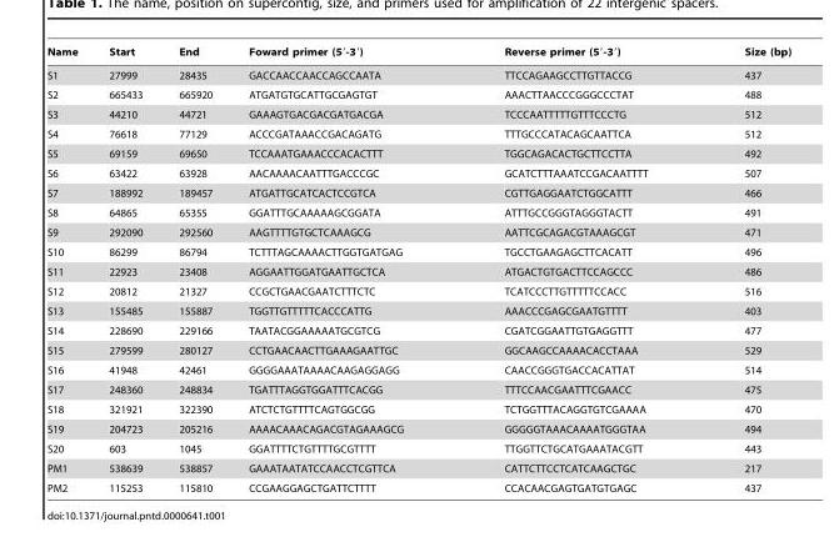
<table><thead><tr><td>Name</td><td>Start</td><td>End</td><td>Foward primer (5′-3′)</td><td>Reverse primer (5′-3′)</td><td>Size (bp)</td></tr></thead><tbody><tr><td>S1</td><td>27999</td><td>28435</td><td>GACCAACCAACCAGCCAATA</td><td>TTCCAGAAGCCTTGTTACCG</td><td>437</td></tr><tr><td>S2</td><td>665433</td><td>665920</td><td>ATGATGTGCATTGCGAGTGT</td><td>AAACTTAACCCGGGCCCTAT</td><td>488</td></tr><tr><td>S3</td><td>44210</td><td>44721</td><td>GAAAGTGACGACGATGACGA</td><td>TCCCAATTTTTGTTTCCCTG</td><td>512</td></tr><tr><td>S4</td><td>76618</td><td>77129</td><td>ACCCGATAAACCGACAGATG</td><td>TTTGCCCATACAGCAATTCA</td><td>512</td></tr><tr><td>S5</td><td>69159</td><td>69650</td><td>TCCAAATGAAACCCACACTTT</td><td>TGGCAGACACTGCTTCCTTA</td><td>492</td></tr><tr><td>S6</td><td>63422</td><td>63928</td><td>AACAAAACAATTTGACCCGC</td><td>GCATCTTTAAATCCGACAATTTT</td><td>507</td></tr><tr><td>S7</td><td>188992</td><td>189457</td><td>ATGATTGCATCACTCCGTCA</td><td>CGTTGAGGAATCTGGCATTT</td><td>466</td></tr><tr><td>S8</td><td>64865</td><td>65355</td><td>GGATTTGCAAAAAGCGGATA</td><td>ATTTGCCGGGTAGGGTACTT</td><td>491</td></tr><tr><td>S9</td><td>292090</td><td>292560</td><td>AAGTTTTGTGCTCAAAGCG</td><td>AATTCGCAGACGTAAAGCGT</td><td>471</td></tr><tr><td>S10</td><td>86299</td><td>86794</td><td>TCTTTAGCAAAACTTGGTGATGAG</td><td>TGCCTGAAGAGCTTCACATT</td><td>496</td></tr><tr><td>S11</td><td>22923</td><td>23408</td><td>AGGAATTGGATGAATTGCTCA</td><td>ATGACTGTGACTTCCAGCCC</td><td>486</td></tr><tr><td>S12</td><td>20812</td><td>21327</td><td>CCGCTGAACGAATCTTTCTC</td><td>TCATCCCTTGTTTTTCCACC</td><td>516</td></tr><tr><td>S13</td><td>155485</td><td>155887</td><td>TGGTTGTTTTTCACCCATTG</td><td>AAACCCGAGCGAATGTTTT</td><td>403</td></tr><tr><td>S14</td><td>228690</td><td>229166</td><td>TAATACGGAAAAATGCGTCG</td><td>CGATCGGAATTGTGAGGTTT</td><td>477</td></tr><tr><td>S15</td><td>279599</td><td>280127</td><td>CCTGAACAACTTGAAAGAATTGC</td><td>GGCAAGCCAAAACACCTAAA</td><td>529</td></tr><tr><td>S16</td><td>41948</td><td>42461</td><td>GGGGAAATAAAACAAGAGGAGG</td><td>CAACCGGGTGACCACATTAT</td><td>514</td></tr><tr><td>S17</td><td>248360</td><td>248834</td><td>TGATTTAGGTGGATTTCACGG</td><td>TTTCCAACGAATTTCGAACC</td><td>475</td></tr><tr><td>S18</td><td>321921</td><td>322390</td><td>ATCTCTGTTTTCAGTGGCGG</td><td>TCTGGTTTACAGGTGTCGAAAA</td><td>470</td></tr><tr><td>S19</td><td>204723</td><td>205216</td><td>AAAACAAACAGACGTAGAAAGCG</td><td>GGGGGTAAACAAAATGGGTAA</td><td>494</td></tr><tr><td>S20</td><td>603</td><td>1045</td><td>GGATTTTCTGTTTTGCGTTTT</td><td>TTGGTTCTGCATGAAATACGTT</td><td>443</td></tr><tr><td>PM1</td><td>538639</td><td>538857</td><td>GAAATAATATCCAACCTCGTTCA</td><td>CATTCTTCCTCATCAAGCTGC</td><td>217</td></tr><tr><td>PM2</td><td>115253</td><td>115810</td><td>CCGAAGGAGCTGATTCTTTT</td><td>CCACAACGAGTGATGTGAGC</td><td>437</td></tr></tbody></table>